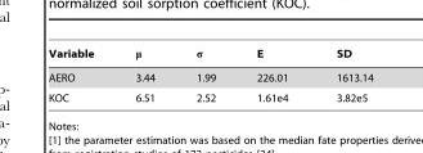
<table><thead><tr><td>Variable</td><td>μ</td><td>σ</td><td>E</td><td>SD</td></tr></thead><tbody><tr><td>AERO</td><td>3.44</td><td>1.99</td><td>226.01</td><td>1613.14</td></tr><tr><td>KOC</td><td>6.51</td><td>2.52</td><td>1.61e4</td><td>3.82e5</td></tr></tbody></table>